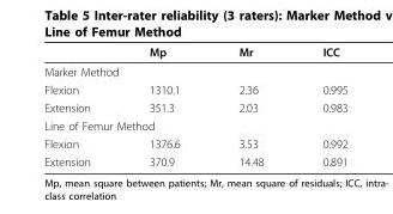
<table><thead><tr><td></td><td>Mp</td><td>Mr</td><td>ICC</td></tr></thead><tbody><tr><td colspan="4">Marker Method</td></tr><tr><td>Flexion</td><td>1310.1</td><td>2.36</td><td>0.995</td></tr><tr><td>Extension</td><td>351.3</td><td>2.03</td><td>0.983</td></tr><tr><td colspan="4">Line of Femur Method</td></tr><tr><td>Flexion</td><td>1376.6</td><td>3.53</td><td>0.992</td></tr><tr><td>Extension</td><td>370.9</td><td>14.48</td><td>0.891</td></tr></tbody></table>